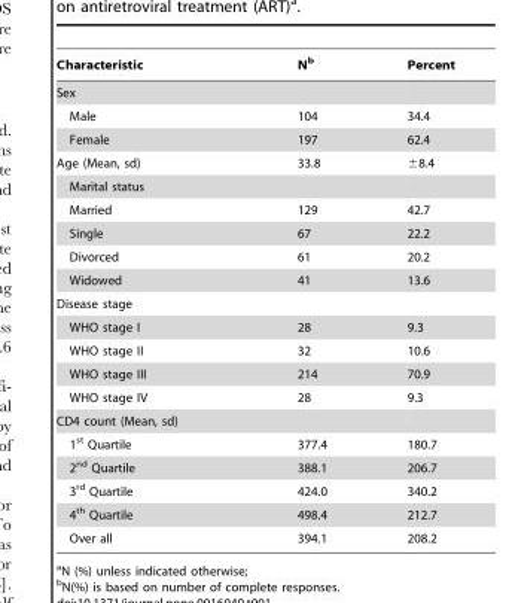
<table><thead><tr><td>Characteristic</td><td>N<sup>b</sup></td><td>Percent</td></tr></thead><tbody><tr><td colspan="3">Sex</td></tr><tr><td>Male</td><td>104</td><td>34.4</td></tr><tr><td>Female</td><td>197</td><td>62.4</td></tr><tr><td>Age (Mean, sd)</td><td>33.8</td><td>±8.4</td></tr><tr><td colspan="3">Marital status</td></tr><tr><td>Married</td><td>129</td><td>42.7</td></tr><tr><td>Single</td><td>67</td><td>22.2</td></tr><tr><td>Divorced</td><td>61</td><td>20.2</td></tr><tr><td>Widowed</td><td>41</td><td>13.6</td></tr><tr><td colspan="3">Disease stage</td></tr><tr><td>WHO stage I</td><td>28</td><td>9.3</td></tr><tr><td>WHO stage II</td><td>32</td><td>10.6</td></tr><tr><td>WHO stage III</td><td>214</td><td>70.9</td></tr><tr><td>WHO stage IV</td><td>28</td><td>9.3</td></tr><tr><td colspan="3">CD4 count (Mean, sd)</td></tr><tr><td>1<sup>st</sup> Quartile</td><td>377.4</td><td>180.7</td></tr><tr><td>2<sup>nd</sup> Quartile</td><td>388.1</td><td>206.7</td></tr><tr><td>3<sup>rd</sup> Quartile</td><td>424.0</td><td>340.2</td></tr><tr><td>4<sup>th</sup> Quartile</td><td>498.4</td><td>212.7</td></tr><tr><td>Over all</td><td>394.1</td><td>208.2</td></tr></tbody></table>